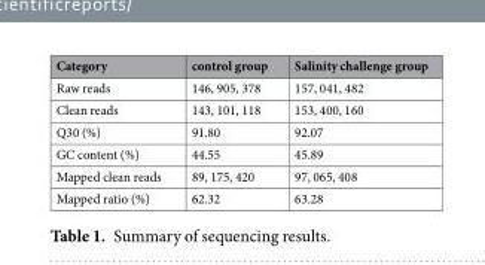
<table><thead><tr><td>Category</td><td>control group</td><td>Salinity challenge group</td></tr></thead><tbody><tr><td>Raw reads</td><td>146, 905, 378</td><td>157, 041, 482</td></tr><tr><td>Clean reads</td><td>143, 101, 118</td><td>153, 400, 160</td></tr><tr><td>Q30 (%)</td><td>91.80</td><td>92.07</td></tr><tr><td>GC content (%)</td><td>44.55</td><td>45.89</td></tr><tr><td>Mapped clean reads</td><td>89, 175, 420</td><td>97, 065, 408</td></tr><tr><td>Mapped ratio (%)</td><td>62.32</td><td>63.28</td></tr></tbody></table>